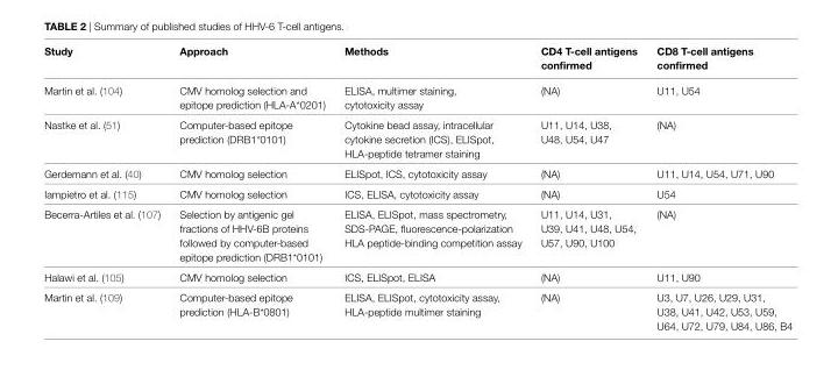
<table><thead><tr><td>Study</td><td>Approach</td><td>Methods</td><td>CD4 T-cell antigens confirmed</td><td>CD8 T-cell antigens confirmed</td></tr></thead><tbody><tr><td>Martin et al. (104)</td><td>CMV homolog selection and epitope prediction (HLA-A*0201)</td><td>ELISA, multimer staining, cytotoxicity assay</td><td>(NA)</td><td>U11, U54</td></tr><tr><td>Nastke et al. (51)</td><td>Computer-based epitope prediction (DRB1*0101)</td><td>Cytokine bead assay, intracellular cytokine secretion (ICS), ELISpot, HLA-peptide tetramer staining</td><td>U11, U14, U38, U48, U54, U47</td><td>(NA)</td></tr><tr><td>Gerdemann et al. (40)</td><td>CMV homolog selection</td><td>ELISpot, ICS, cytotoxicity assay</td><td>(NA)</td><td>U11, U14, U54, U71, U90</td></tr><tr><td>Iampietro et al. (115)</td><td>CMV homolog selection</td><td>ICS, ELISA, cytotoxicity assay</td><td>(NA)</td><td>U54</td></tr><tr><td>Becerra-Artiles et al. (107)</td><td>Selection by antigenic gel fractions of HHV-6B proteins followed by computer-based epitope prediction (DRB1*0101)</td><td>ELISA, ELISpot, mass spectrometry, SDS-PAGE, fluorescence-polarization HLA peptide-binding competition assay</td><td>U11, U14, U31, U39, U41, U48, U54, U57, U90, U100</td><td>(NA)</td></tr><tr><td>Halawi et al. (105)</td><td>CMV homolog selection</td><td>ICS, ELISpot, ELISA</td><td>(NA)</td><td>U11, U90</td></tr><tr><td>Martin et al. (109)</td><td>Computer-based epitope prediction (HLA-B*0801)</td><td>ELISA, ELISpot, cytotoxicity assay, HLA-peptide multimer staining</td><td>(NA)</td><td>U3, U7, U26, U29, U31, U38, U41, U42, U53, U59, U64, U72, U79, U84, U86, B4</td></tr></tbody></table>